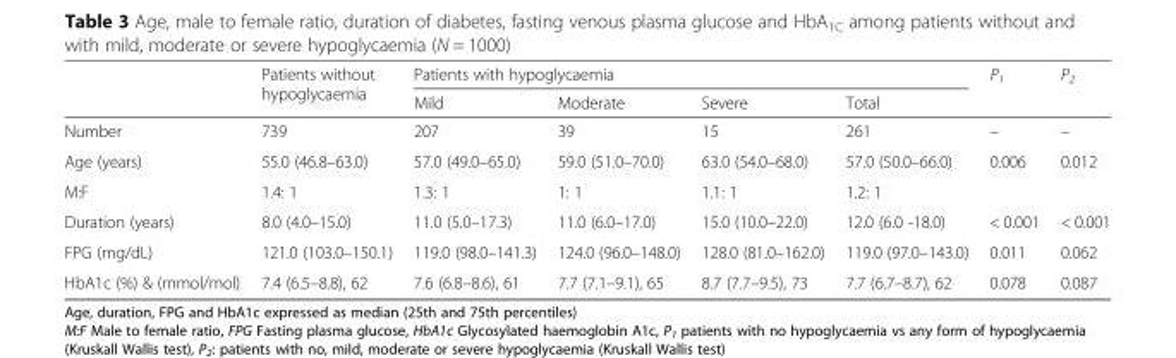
<table><thead><tr><td rowspan="2"></td><td rowspan="2">Patients without hypoglycaemia</td><td colspan="4">Patients with hypoglycaemia</td><td rowspan="2">P<sub>1</sub></td><td rowspan="2">P<sub>2</sub></td></tr><tr><td>Mild</td><td>Moderate</td><td>Severe</td><td>Total</td></tr></thead><tbody><tr><td>Number</td><td>739</td><td>207</td><td>39</td><td>15</td><td>261</td><td>–</td><td>–</td></tr><tr><td>Age (years)</td><td>55.0 (46.8–63.0)</td><td>57.0 (49.0–65.0)</td><td>59.0 (51.0–70.0)</td><td>63.0 (54.0–68.0)</td><td>57.0 (50.0–66.0)</td><td>0.006</td><td>0.012</td></tr><tr><td>M:F</td><td>1.4: 1</td><td>1.3: 1</td><td>1: 1</td><td>1.1: 1</td><td>1.2: 1</td><td></td><td></td></tr><tr><td>Duration (years)</td><td>8.0 (4.0–15.0)</td><td>11.0 (5.0–17.3)</td><td>11.0 (6.0–17.0)</td><td>15.0 (10.0–22.0)</td><td>12.0 (6.0 -18.0)</td><td>&lt; 0.001</td><td>&lt; 0.001</td></tr><tr><td>FPG (mg/dL)</td><td>121.0 (103.0–150.1)</td><td>119.0 (98.0–141.3)</td><td>124.0 (96.0–148.0)</td><td>128.0 (81.0–162.0)</td><td>119.0 (97.0–143.0)</td><td>0.011</td><td>0.062</td></tr><tr><td>HbA1c (%) &amp; (mmol/mol)</td><td>7.4 (6.5–8.8), 62</td><td>7.6 (6.8–8.6), 61</td><td>7.7 (7.1–9.1), 65</td><td>8.7 (7.7–9.5), 73</td><td>7.7 (6.7–8.7), 62</td><td>0.078</td><td>0.087</td></tr></tbody></table>